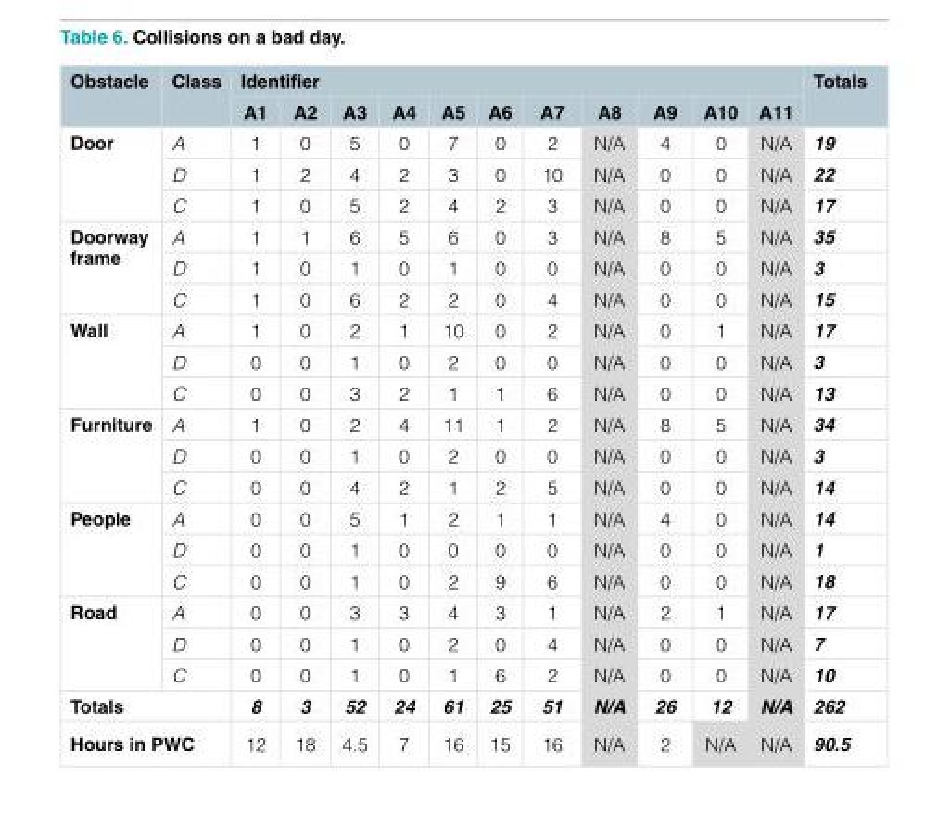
<table><thead><tr><td rowspan="2">Obstacle</td><td rowspan="2">Class</td><td colspan="11">Identifier</td><td rowspan="2">Totals</td></tr><tr><td>A1</td><td>A2</td><td>A3</td><td>A4</td><td>A5</td><td>A6</td><td>A7</td><td>A8</td><td>A9</td><td>A10</td><td>A11</td></tr></thead><tbody><tr><td rowspan="3">Door</td><td>A</td><td>1</td><td>0</td><td>5</td><td>0</td><td>7</td><td>0</td><td>2</td><td>N/A</td><td>4</td><td>0</td><td>N/A</td><td>19</td></tr><tr><td>D</td><td>1</td><td>2</td><td>4</td><td>2</td><td>3</td><td>0</td><td>10</td><td>N/A</td><td>0</td><td>0</td><td>N/A</td><td>22</td></tr><tr><td>C</td><td>1</td><td>0</td><td>5</td><td>2</td><td>4</td><td>2</td><td>3</td><td>N/A</td><td>0</td><td>0</td><td>N/A</td><td>17</td></tr><tr><td rowspan="3">Doorway frame</td><td>A</td><td>1</td><td>1</td><td>6</td><td>5</td><td>6</td><td>0</td><td>3</td><td>N/A</td><td>8</td><td>5</td><td>N/A</td><td>35</td></tr><tr><td>D</td><td>1</td><td>0</td><td>1</td><td>0</td><td>1</td><td>0</td><td>0</td><td>N/A</td><td>0</td><td>0</td><td>N/A</td><td>3</td></tr><tr><td>C</td><td>1</td><td>0</td><td>6</td><td>2</td><td>2</td><td>0</td><td>4</td><td>N/A</td><td>0</td><td>0</td><td>N/A</td><td>15</td></tr><tr><td rowspan="3">Wall</td><td>A</td><td>1</td><td>0</td><td>2</td><td>1</td><td>10</td><td>0</td><td>2</td><td>N/A</td><td>0</td><td>1</td><td>N/A</td><td>17</td></tr><tr><td>D</td><td>0</td><td>0</td><td>1</td><td>0</td><td>2</td><td>0</td><td>0</td><td>N/A</td><td>0</td><td>0</td><td>N/A</td><td>3</td></tr><tr><td>C</td><td>0</td><td>0</td><td>3</td><td>2</td><td>1</td><td>1</td><td>6</td><td>N/A</td><td>0</td><td>0</td><td>N/A</td><td>13</td></tr><tr><td rowspan="3">Furniture</td><td>A</td><td>1</td><td>0</td><td>2</td><td>4</td><td>11</td><td>1</td><td>2</td><td>N/A</td><td>8</td><td>5</td><td>N/A</td><td>34</td></tr><tr><td>D</td><td>0</td><td>0</td><td>1</td><td>0</td><td>2</td><td>0</td><td>0</td><td>N/A</td><td>0</td><td>0</td><td>N/A</td><td>3</td></tr><tr><td>C</td><td>0</td><td>0</td><td>4</td><td>2</td><td>1</td><td>2</td><td>5</td><td>N/A</td><td>0</td><td>0</td><td>N/A</td><td>14</td></tr><tr><td rowspan="3">People</td><td>A</td><td>0</td><td>0</td><td>5</td><td>1</td><td>2</td><td>1</td><td>1</td><td>N/A</td><td>4</td><td>0</td><td>N/A</td><td>14</td></tr><tr><td>D</td><td>0</td><td>0</td><td>1</td><td>0</td><td>0</td><td>0</td><td>0</td><td>N/A</td><td>0</td><td>0</td><td>N/A</td><td>1</td></tr><tr><td>C</td><td>0</td><td>0</td><td>1</td><td>0</td><td>2</td><td>9</td><td>6</td><td>N/A</td><td>0</td><td>0</td><td>N/A</td><td>18</td></tr><tr><td rowspan="3">Road</td><td>A</td><td>0</td><td>0</td><td>3</td><td>3</td><td>4</td><td>3</td><td>1</td><td>N/A</td><td>2</td><td>1</td><td>N/A</td><td>17</td></tr><tr><td>D</td><td>0</td><td>0</td><td>1</td><td>0</td><td>2</td><td>0</td><td>4</td><td>N/A</td><td>0</td><td>0</td><td>N/A</td><td>7</td></tr><tr><td>C</td><td>0</td><td>0</td><td>1</td><td>0</td><td>1</td><td>6</td><td>2</td><td>N/A</td><td>0</td><td>0</td><td>N/A</td><td>10</td></tr><tr><td colspan="2">Totals</td><td>8</td><td>3</td><td>52</td><td>24</td><td>61</td><td>25</td><td>51</td><td>N/A</td><td>26</td><td>12</td><td>N/A</td><td>262</td></tr><tr><td colspan="2">Hours in PWC</td><td>12</td><td>18</td><td>4.5</td><td>7</td><td>16</td><td>15</td><td>16</td><td>N/A</td><td>2</td><td>N/A</td><td>N/A</td><td>90.5</td></tr></tbody></table>